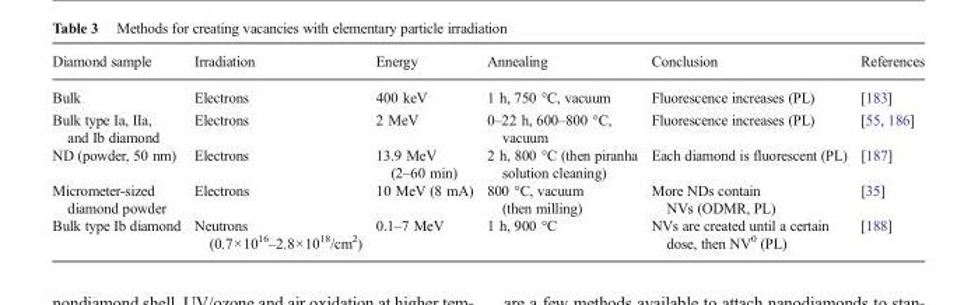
<table><thead><tr><td>Diamond sample</td><td>Irradiation</td><td>Energy</td><td>Annealing</td><td>Conclusion</td><td>References</td></tr></thead><tbody><tr><td>Bulk</td><td>Electrons</td><td>400 keV</td><td>1 h, 750 °C, vacuum</td><td>Fluorescence increases (PL)</td><td>[183]</td></tr><tr><td>Bulk type Ia, IIa, and Ib diamond</td><td>Electrons</td><td>2 MeV</td><td>0–22 h, 600–800 °C, vacuum</td><td>Fluorescence increases (PL)</td><td>[55, 186]</td></tr><tr><td>ND (powder, 50 nm)</td><td>Electrons</td><td>13.9 MeV (2–60 min)</td><td>2 h, 800 °C (then piranha solution cleaning)</td><td>Each diamond is fluorescent (PL)</td><td>[187]</td></tr><tr><td>Micrometer-sized diamond powder</td><td>Electrons</td><td>10 MeV (8 mA)</td><td>800 °C, vacuum (then milling)</td><td>More NDs contain NVs (ODMR, PL)</td><td>[35]</td></tr><tr><td>Bulk type Ib diamond</td><td>Neutrons (0.7×10<sup>16</sup>–2.8×10<sup>18</sup>/cm<sup>2</sup>)</td><td>0.1–7 MeV</td><td>1 h, 900 °C</td><td>NVs are created until a certain dose, then NV<sup>0</sup> (PL)</td><td>[188]</td></tr></tbody></table>